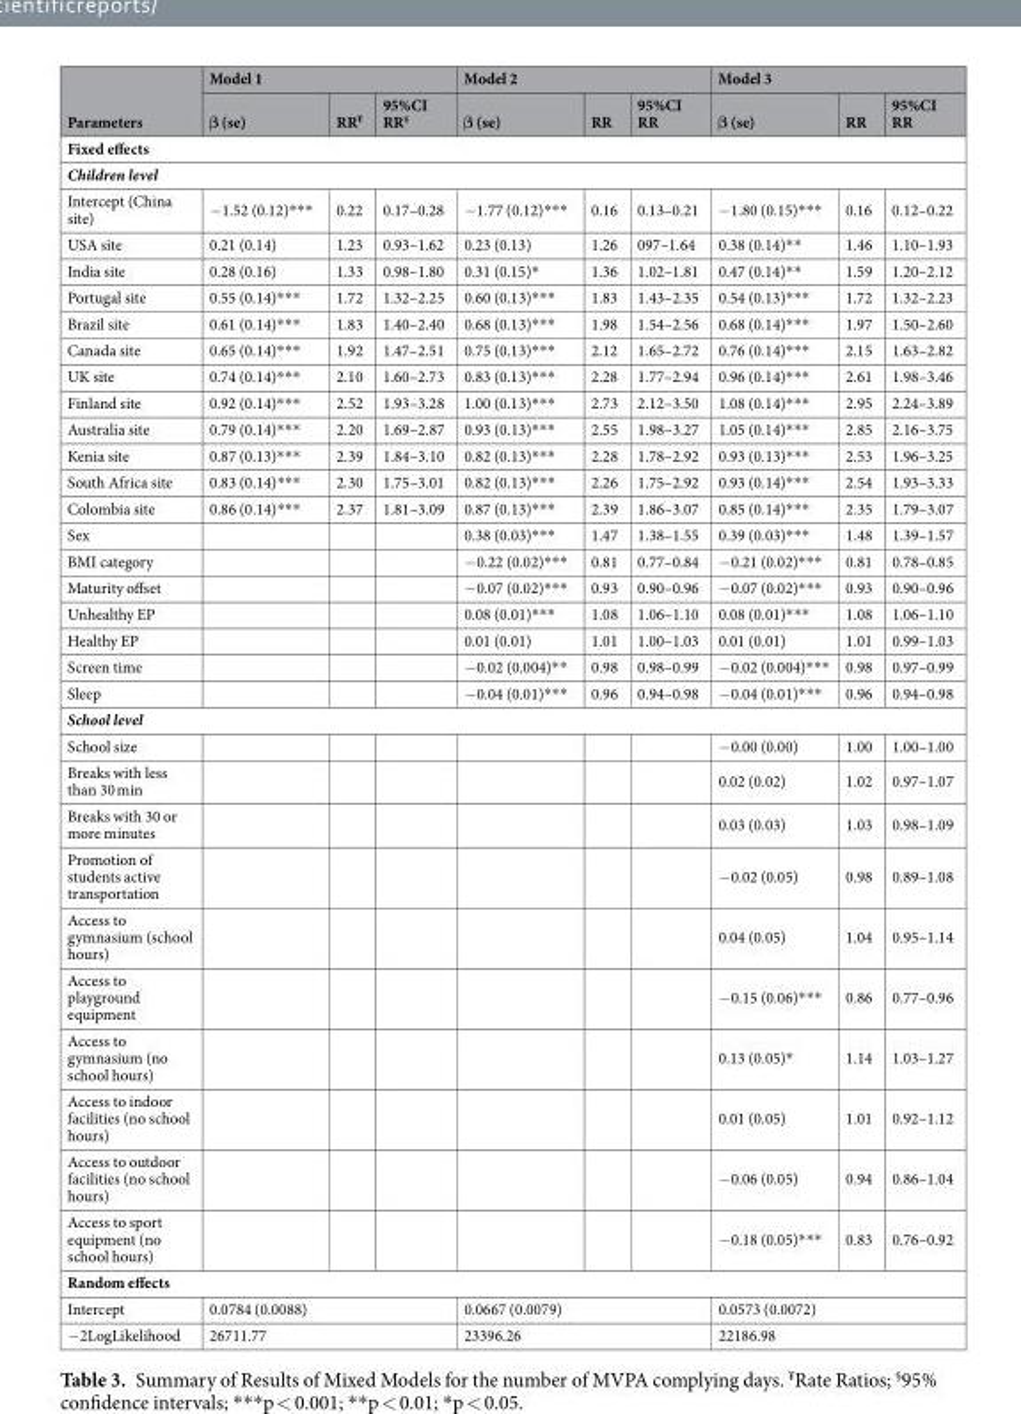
<table><thead><tr><td rowspan="2">Parameters</td><td colspan="3">Model 1</td><td colspan="3">Model 2</td><td colspan="3">Model 3</td></tr><tr><td>β (se)</td><td>RR<sup>¥</sup></td><td>95%CI RR<sup>§</sup></td><td>β (se)</td><td>RR</td><td>95%CI RR</td><td>β (se)</td><td>RR</td><td>95%CI RR</td></tr></thead><tbody><tr><td colspan="10">Fixed effects</td></tr><tr><td colspan="10">Children level</td></tr><tr><td>Intercept (China site)</td><td>−1.52 (0.12)***</td><td>0.22</td><td>0.17–0.28</td><td>−1.77 (0.12)***</td><td>0.16</td><td>0.13–0.21</td><td>−1.80 (0.15)***</td><td>0.16</td><td>0.12–0.22</td></tr><tr><td>USA site</td><td>0.21 (0.14)</td><td>1.23</td><td>0.93–1.62</td><td>0.23 (0.13)</td><td>1.26</td><td>097–1.64</td><td>0.38 (0.14)**</td><td>1.46</td><td>1.10–1.93</td></tr><tr><td>India site</td><td>0.28 (0.16)</td><td>1.33</td><td>0.98–1.80</td><td>0.31 (0.15)*</td><td>1.36</td><td>1.02–1.81</td><td>0.47 (0.14)**</td><td>1.59</td><td>1.20–2.12</td></tr><tr><td>Portugal site</td><td>0.55 (0.14)***</td><td>1.72</td><td>1.32–2.25</td><td>0.60 (0.13)***</td><td>1.83</td><td>1.43–2.35</td><td>0.54 (0.13)***</td><td>1.72</td><td>1.32–2.23</td></tr><tr><td>Brazil site</td><td>0.61 (0.14)***</td><td>1.83</td><td>1.40–2.40</td><td>0.68 (0.13)***</td><td>1.98</td><td>1.54–2.56</td><td>0.68 (0.14)***</td><td>1.97</td><td>1.50–2.60</td></tr><tr><td>Canada site</td><td>0.65 (0.14)***</td><td>1.92</td><td>1.47–2.51</td><td>0.75 (0.13)***</td><td>2.12</td><td>1.65–2.72</td><td>0.76 (0.14)***</td><td>2.15</td><td>1.63–2.82</td></tr><tr><td>UK site</td><td>0.74 (0.14)***</td><td>2.10</td><td>1.60–2.73</td><td>0.83 (0.13)***</td><td>2.28</td><td>1.77–2.94</td><td>0.96 (0.14)***</td><td>2.61</td><td>1.98–3.46</td></tr><tr><td>Finland site</td><td>0.92 (0.14)***</td><td>2.52</td><td>1.93–3.28</td><td>1.00 (0.13)***</td><td>2.73</td><td>2.12–3.50</td><td>1.08 (0.14)***</td><td>2.95</td><td>2.24–3.89</td></tr><tr><td>Australia site</td><td>0.79 (0.14)***</td><td>2.20</td><td>1.69–2.87</td><td>0.93 (0.13)***</td><td>2.55</td><td>1.98–3.27</td><td>1.05 (0.14)***</td><td>2.85</td><td>2.16–3.75</td></tr><tr><td>Kenia site</td><td>0.87 (0.13)***</td><td>2.39</td><td>1.84–3.10</td><td>0.82 (0.13)***</td><td>2.28</td><td>1.78–2.92</td><td>0.93 (0.13)***</td><td>2.53</td><td>1.96–3.25</td></tr><tr><td>South Africa site</td><td>0.83 (0.14)***</td><td>2.30</td><td>1.75–3.01</td><td>0.82 (0.13)***</td><td>2.26</td><td>1.75–2.92</td><td>0.93 (0.14)***</td><td>2.54</td><td>1.93–3.33</td></tr><tr><td>Colombia site</td><td>0.86 (0.14)***</td><td>2.37</td><td>1.81–3.09</td><td>0.87 (0.13)***</td><td>2.39</td><td>1.86–3.07</td><td>0.85 (0.14)***</td><td>2.35</td><td>1.79–3.07</td></tr><tr><td>Sex</td><td></td><td></td><td></td><td>0.38 (0.03)***</td><td>1.47</td><td>1.38–1.55</td><td>0.39 (0.03)***</td><td>1.48</td><td>1.39–1.57</td></tr><tr><td>BMI category</td><td></td><td></td><td></td><td>−0.22 (0.02)***</td><td>0.81</td><td>0.77–0.84</td><td>−0.21 (0.02)***</td><td>0.81</td><td>0.78–0.85</td></tr><tr><td>Maturity offset</td><td></td><td></td><td></td><td>−0.07 (0.02)***</td><td>0.93</td><td>0.90–0.96</td><td>−0.07 (0.02)***</td><td>0.93</td><td>0.90–0.96</td></tr><tr><td>Unhealthy EP</td><td></td><td></td><td></td><td>0.08 (0.01)***</td><td>1.08</td><td>1.06–1.10</td><td>0.08 (0.01)***</td><td>1.08</td><td>1.06–1.10</td></tr><tr><td>Healthy EP</td><td></td><td></td><td></td><td>0.01 (0.01)</td><td>1.01</td><td>1.00–1.03</td><td>0.01 (0.01)</td><td>1.01</td><td>0.99–1.03</td></tr><tr><td>Screen time</td><td></td><td></td><td></td><td>−0.02 (0.004)**</td><td>0.98</td><td>0.98–0.99</td><td>−0.02 (0.004)***</td><td>0.98</td><td>0.97–0.99</td></tr><tr><td>Sleep</td><td></td><td></td><td></td><td>−0.04 (0.01)***</td><td>0.96</td><td>0.94–0.98</td><td>−0.04 (0.01)***</td><td>0.96</td><td>0.94–0.98</td></tr><tr><td colspan="10">School level</td></tr><tr><td>School size</td><td></td><td></td><td></td><td></td><td></td><td></td><td>−0.00 (0.00)</td><td>1.00</td><td>1.00–1.00</td></tr><tr><td>Breaks with less than 30 min</td><td></td><td></td><td></td><td></td><td></td><td></td><td>0.02 (0.02)</td><td>1.02</td><td>0.97–1.07</td></tr><tr><td>Breaks with 30 or more minutes</td><td></td><td></td><td></td><td></td><td></td><td></td><td>0.03 (0.03)</td><td>1.03</td><td>0.98–1.09</td></tr><tr><td>Promotion of students active transportation</td><td></td><td></td><td></td><td></td><td></td><td></td><td>−0.02 (0.05)</td><td>0.98</td><td>0.89–1.08</td></tr><tr><td>Access to gymnasium (school hours)</td><td></td><td></td><td></td><td></td><td></td><td></td><td>0.04 (0.05)</td><td>1.04</td><td>0.95–1.14</td></tr><tr><td>Access to playground equipment</td><td></td><td></td><td></td><td></td><td></td><td></td><td>−0.15 (0.06)***</td><td>0.86</td><td>0.77–0.96</td></tr><tr><td>Access to gymnasium (no school hours)</td><td></td><td></td><td></td><td></td><td></td><td></td><td>0.13 (0.05)*</td><td>1.14</td><td>1.03–1.27</td></tr><tr><td>Access to indoor facilities (no school hours)</td><td></td><td></td><td></td><td></td><td></td><td></td><td>0.01 (0.05)</td><td>1.01</td><td>0.92–1.12</td></tr><tr><td>Access to outdoor facilities (no school hours)</td><td></td><td></td><td></td><td></td><td></td><td></td><td>−0.06 (0.05)</td><td>0.94</td><td>0.86–1.04</td></tr><tr><td>Access to sport equipment (no school hours)</td><td></td><td></td><td></td><td></td><td></td><td></td><td>−0.18 (0.05)***</td><td>0.83</td><td>0.76–0.92</td></tr><tr><td colspan="10">Random effects</td></tr><tr><td>Intercept</td><td colspan="3">0.0784 (0.0088)</td><td colspan="3">0.0667 (0.0079)</td><td colspan="3">0.0573 (0.0072)</td></tr><tr><td>−2LogLikelihood</td><td colspan="3">26711.77</td><td colspan="3">23396.26</td><td colspan="3">22186.98</td></tr></tbody></table>